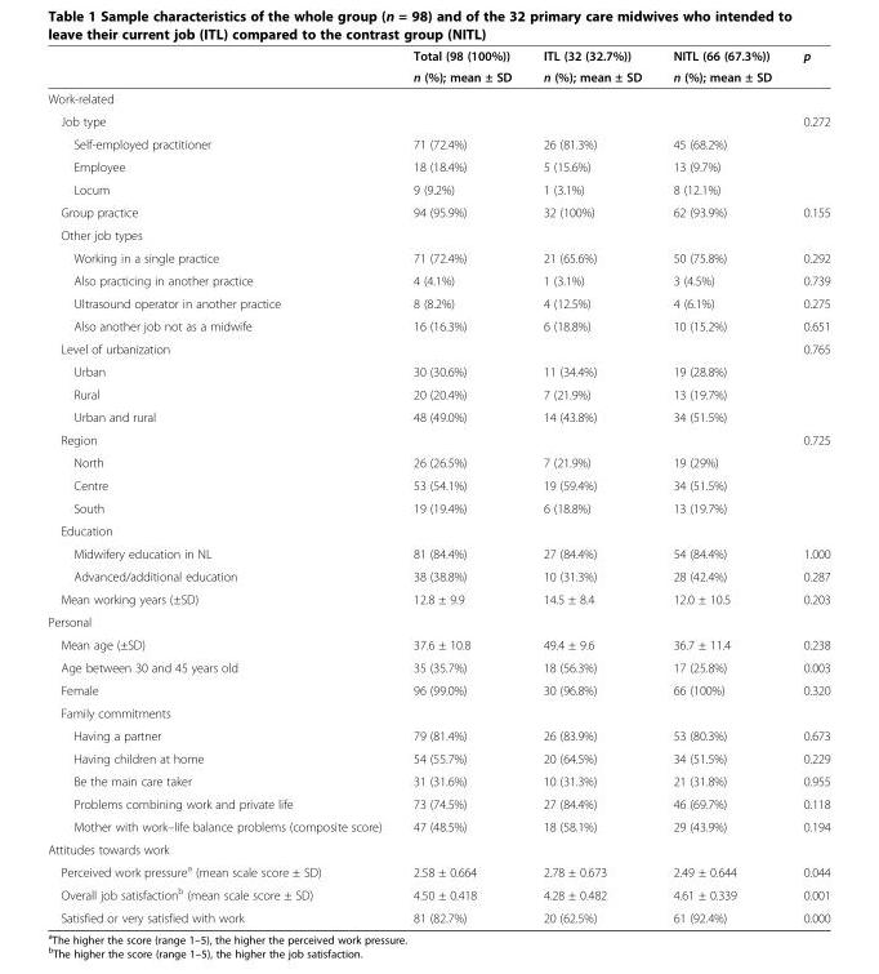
<table><thead><tr><td rowspan="2"></td><td rowspan="2">Total (98 (100%)) n (%); mean ± SD</td><td rowspan="2">ITL (32 (32.7%)) n (%); mean ± SD</td><td rowspan="2">NITL (66 (67.3%)) n (%); mean ± SD</td><td rowspan="2">p</td></tr><tr></tr></thead><tbody><tr><td colspan="5">Work-related</td></tr><tr><td>Job type</td><td></td><td></td><td></td><td>0.272</td></tr><tr><td>Self-employed practitioner</td><td>71 (72.4%)</td><td>26 (81.3%)</td><td>45 (68.2%)</td><td></td></tr><tr><td>Employee</td><td>18 (18.4%)</td><td>5 (15.6%)</td><td>13 (9.7%)</td><td></td></tr><tr><td>Locum</td><td>9 (9.2%)</td><td>1 (3.1%)</td><td>8 (12.1%)</td><td></td></tr><tr><td>Group practice</td><td>94 (95.9%)</td><td>32 (100%)</td><td>62 (93.9%)</td><td>0.155</td></tr><tr><td colspan="5">Other job types</td></tr><tr><td>Working in a single practice</td><td>71 (72.4%)</td><td>21 (65.6%)</td><td>50 (75.8%)</td><td>0.292</td></tr><tr><td>Also practicing in another practice</td><td>4 (4.1%)</td><td>1 (3.1%)</td><td>3 (4.5%)</td><td>0.739</td></tr><tr><td>Ultrasound operator in another practice</td><td>8 (8.2%)</td><td>4 (12.5%)</td><td>4 (6.1%)</td><td>0.275</td></tr><tr><td>Also another job not as a midwife</td><td>16 (16.3%)</td><td>6 (18.8%)</td><td>10 (15.2%)</td><td>0.651</td></tr><tr><td>Level of urbanization</td><td></td><td></td><td></td><td>0.765</td></tr><tr><td>Urban</td><td>30 (30.6%)</td><td>11 (34.4%)</td><td>19 (28.8%)</td><td></td></tr><tr><td>Rural</td><td>20 (20.4%)</td><td>7 (21.9%)</td><td>13 (19.7%)</td><td></td></tr><tr><td>Urban and rural</td><td>48 (49.0%)</td><td>14 (43.8%)</td><td>34 (51.5%)</td><td></td></tr><tr><td>Region</td><td></td><td></td><td></td><td>0.725</td></tr><tr><td>North</td><td>26 (26.5%)</td><td>7 (21.9%)</td><td>19 (29%)</td><td></td></tr><tr><td>Centre</td><td>53 (54.1%)</td><td>19 (59.4%)</td><td>34 (51.5%)</td><td></td></tr><tr><td>South</td><td>19 (19.4%)</td><td>6 (18.8%)</td><td>13 (19.7%)</td><td></td></tr><tr><td colspan="5">Education</td></tr><tr><td>Midwifery education in NL</td><td>81 (84.4%)</td><td>27 (84.4%)</td><td>54 (84.4%)</td><td>1.000</td></tr><tr><td>Advanced/additional education</td><td>38 (38.8%)</td><td>10 (31.3%)</td><td>28 (42.4%)</td><td>0.287</td></tr><tr><td>Mean working years (±SD)</td><td>12.8 ± 9.9</td><td>14.5 ± 8.4</td><td>12.0 ± 10.5</td><td>0.203</td></tr><tr><td colspan="5">Personal</td></tr><tr><td>Mean age (±SD)</td><td>37.6 ± 10.8</td><td>49.4 ± 9.6</td><td>36.7 ± 11.4</td><td>0.238</td></tr><tr><td>Age between 30 and 45 years old</td><td>35 (35.7%)</td><td>18 (56.3%)</td><td>17 (25.8%)</td><td>0.003</td></tr><tr><td>Female</td><td>96 (99.0%)</td><td>30 (96.8%)</td><td>66 (100%)</td><td>0.320</td></tr><tr><td colspan="5">Family commitments</td></tr><tr><td>Having a partner</td><td>79 (81.4%)</td><td>26 (83.9%)</td><td>53 (80.3%)</td><td>0.673</td></tr><tr><td>Having children at home</td><td>54 (55.7%)</td><td>20 (64.5%)</td><td>34 (51.5%)</td><td>0.229</td></tr><tr><td>Be the main care taker</td><td>31 (31.6%)</td><td>10 (31.3%)</td><td>21 (31.8%)</td><td>0.955</td></tr><tr><td>Problems combining work and private life</td><td>73 (74.5%)</td><td>27 (84.4%)</td><td>46 (69.7%)</td><td>0.118</td></tr><tr><td>Mother with work–life balance problems (composite score)</td><td>47 (48.5%)</td><td>18 (58.1%)</td><td>29 (43.9%)</td><td>0.194</td></tr><tr><td colspan="5">Attitudes towards work</td></tr><tr><td>Perceived work pressure<sup>a</sup> (mean scale score ± SD)</td><td>2.58 ± 0.664</td><td>2.78 ± 0.673</td><td>2.49 ± 0.644</td><td>0.044</td></tr><tr><td>Overall job satisfaction<sup>b</sup> (mean scale score ± SD)</td><td>4.50 ± 0.418</td><td>4.28 ± 0.482</td><td>4.61 ± 0.339</td><td>0.001</td></tr><tr><td>Satisfied or very satisfied with work</td><td>81 (82.7%)</td><td>20 (62.5%)</td><td>61 (92.4%)</td><td>0.000</td></tr></tbody></table>